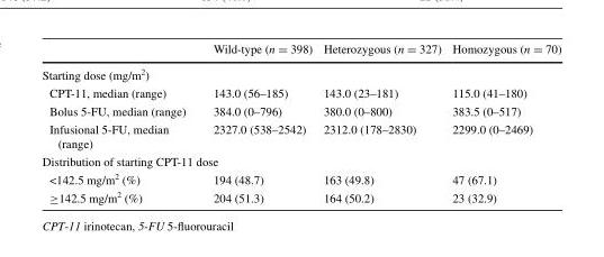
<table><thead><tr><td></td><td>Wild-type (n = 398)</td><td>Heterozygous (n = 327)</td><td>Homozygous (n = 70)</td></tr></thead><tbody><tr><td colspan="4">Starting dose (mg/m<sup>2</sup>)</td></tr><tr><td>CPT-11, median (range)</td><td>143.0 (56–185)</td><td>143.0 (23–181)</td><td>115.0 (41–180)</td></tr><tr><td>Bolus 5-FU, median (range)</td><td>384.0 (0–796)</td><td>380.0 (0–800)</td><td>383.5 (0–517)</td></tr><tr><td>Infusional 5-FU, median (range)</td><td>2327.0 (538–2542)</td><td>2312.0 (178–2830)</td><td>2299.0 (0–2469)</td></tr><tr><td colspan="4">Distribution of starting CPT-11 dose</td></tr><tr><td>&lt;142.5 mg/m<sup>2</sup> (%)</td><td>194 (48.7)</td><td>163 (49.8)</td><td>47 (67.1)</td></tr><tr><td>≥142.5 mg/m<sup>2</sup> (%)</td><td>204 (51.3)</td><td>164 (50.2)</td><td>23 (32.9)</td></tr></tbody></table>